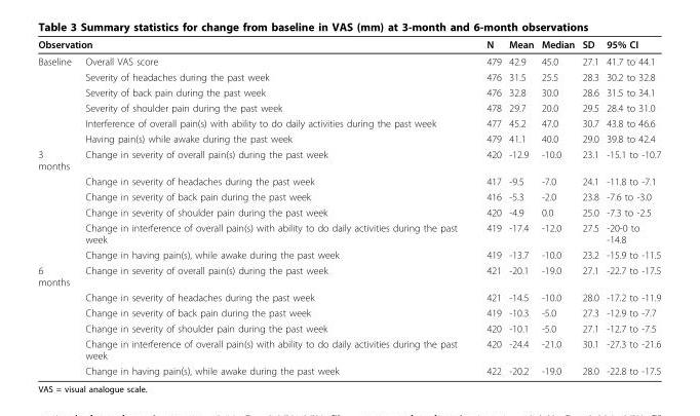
<table><thead><tr><td colspan="2">Observation</td><td rowspan="2">N 479</td><td rowspan="2">Mean 42.9</td><td rowspan="2">Median 45.0</td><td rowspan="2">SD 27.1</td><td rowspan="2">95% CI 41.7 to 44.1</td></tr><tr><td>Baseline</td><td>Overall VAS score</td></tr></thead><tbody><tr><td></td><td>Severity of headaches during the past week</td><td>476</td><td>31.5</td><td>25.5</td><td>28.3</td><td>30.2 to 32.8</td></tr><tr><td></td><td>Severity of back pain during the past week</td><td>476</td><td>32.8</td><td>30.0</td><td>28.6</td><td>31.5 to 34.1</td></tr><tr><td></td><td>Severity of shoulder pain during the past week</td><td>478</td><td>29.7</td><td>20.0</td><td>29.5</td><td>28.4 to 31.0</td></tr><tr><td></td><td>Interference of overall pain(s) with ability to do daily activities during the past week</td><td>477</td><td>45.2</td><td>47.0</td><td>30.7</td><td>43.8 to 46.6</td></tr><tr><td></td><td>Having pain(s) while awake during the past week</td><td>479</td><td>41.1</td><td>40.0</td><td>29.0</td><td>39.8 to 42.4</td></tr><tr><td rowspan="6">3 months</td><td>Change in severity of overall pain(s) during the past week</td><td>420</td><td>-12.9</td><td>-10.0</td><td>23.1</td><td>-15.1 to -10.7</td></tr><tr><td>Change in severity of headaches during the past week</td><td>417</td><td>-9.5</td><td>-7.0</td><td>24.1</td><td>-11.8 to -7.1</td></tr><tr><td>Change in severity of back pain during the past week</td><td>416</td><td>-5.3</td><td>-2.0</td><td>23.8</td><td>-7.6 to -3.0</td></tr><tr><td>Change in severity of shoulder pain during the past week</td><td>420</td><td>-4.9</td><td>0.0</td><td>25.0</td><td>-7.3 to -2.5</td></tr><tr><td>Change in interference of overall pain(s) with ability to do daily activities during the past week</td><td>419</td><td>-17.4</td><td>-12.0</td><td>27.5</td><td>-20-0 to -14.8</td></tr><tr><td>Change in having pain(s), while awake during the past week</td><td>419</td><td>-13.7</td><td>-10.0</td><td>23.2</td><td>-15.9 to -11.5</td></tr><tr><td rowspan="6">6 months</td><td>Change in severity of overall pain(s) during the past week</td><td>421</td><td>-20.1</td><td>-19.0</td><td>27.1</td><td>-22.7 to -17.5</td></tr><tr><td>Change in severity of headaches during the past week</td><td>421</td><td>-14.5</td><td>-10.0</td><td>28.0</td><td>-17.2 to -11.9</td></tr><tr><td>Change in severity of back pain during the past week</td><td>419</td><td>-10.3</td><td>-5.0</td><td>27.3</td><td>-12.9 to -7.7</td></tr><tr><td>Change in severity of shoulder pain during the past week</td><td>420</td><td>-10.1</td><td>-5.0</td><td>27.1</td><td>-12.7 to -7.5</td></tr><tr><td>Change in interference of overall pain(s) with ability to do daily activities during the past week</td><td>420</td><td>-24.4</td><td>-21.0</td><td>30.1</td><td>-27.3 to -21.6</td></tr><tr><td>Change in having pain(s), while awake during the past week</td><td>422</td><td>-20.2</td><td>-19.0</td><td>28.0</td><td>-22.8 to -17.5</td></tr></tbody></table>